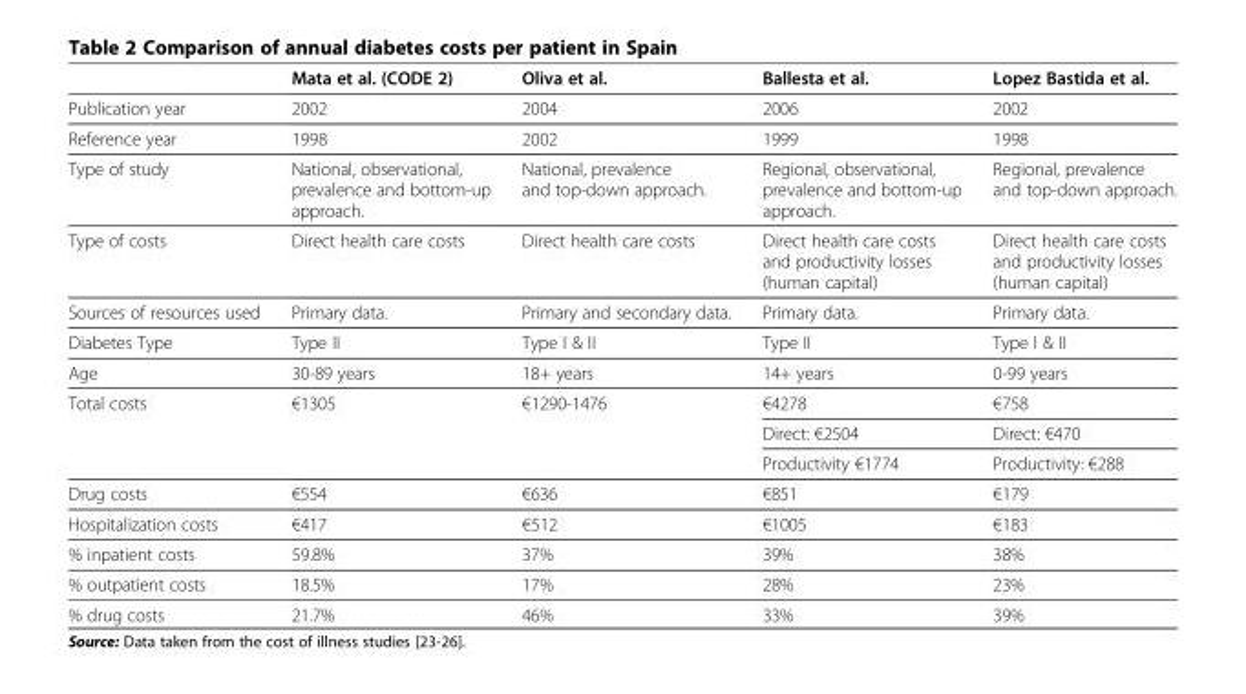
<table><thead><tr><td></td><td>Mata et al. (CODE 2)</td><td>Oliva et al.</td><td>Ballesta et al.</td><td>Lopez Bastida et al.</td></tr></thead><tbody><tr><td>Publication year</td><td>2002</td><td>2004</td><td>2006</td><td>2002</td></tr><tr><td>Reference year</td><td>1998</td><td>2002</td><td>1999</td><td>1998</td></tr><tr><td>Type of study</td><td>National, observational, prevalence and bottom-up approach.</td><td>National, prevalence and top-down approach.</td><td>Regional, observational, prevalence and bottom-up approach.</td><td>Regional, prevalence and top-down approach.</td></tr><tr><td>Type of costs</td><td>Direct health care costs</td><td>Direct health care costs</td><td>Direct health care costs and productivity losses (human capital)</td><td>Direct health care costs and productivity losses (human capital)</td></tr><tr><td>Sources of resources used</td><td>Primary data.</td><td>Primary and secondary data.</td><td>Primary data.</td><td>Primary data.</td></tr><tr><td>Diabetes Type</td><td>Type II</td><td>Type I &amp; II</td><td>Type II</td><td>Type I &amp; II</td></tr><tr><td>Age</td><td>30-89 years</td><td>18+ years</td><td>14+ years</td><td>0-99 years</td></tr><tr><td rowspan="3">Total costs</td><td rowspan="3">€1305</td><td rowspan="3">€1290-1476</td><td>€4278</td><td>€758</td></tr><tr><td>Direct: €2504</td><td>Direct: €470</td></tr><tr><td>Productivity €1774</td><td>Productivity: €288</td></tr><tr><td>Drug costs</td><td>€554</td><td>€636</td><td>€851</td><td>€179</td></tr><tr><td>Hospitalization costs</td><td>€417</td><td>€512</td><td>€1005</td><td>€183</td></tr><tr><td>% inpatient costs</td><td>59.8%</td><td>37%</td><td>39%</td><td>38%</td></tr><tr><td>% outpatient costs</td><td>18.5%</td><td>17%</td><td>28%</td><td>23%</td></tr><tr><td>% drug costs</td><td>21.7%</td><td>46%</td><td>33%</td><td>39%</td></tr></tbody></table>